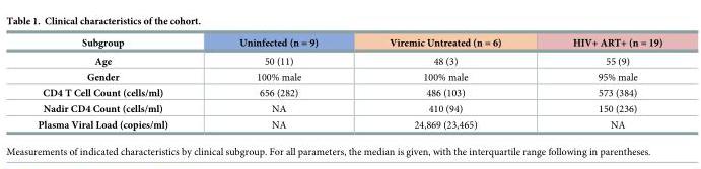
<table><thead><tr><td>Subgroup</td><td>Uninfected (n = 9)</td><td>Viremic Untreated (n = 6)</td><td>HIV+ ART+ (n = 19)</td></tr></thead><tbody><tr><td>Age</td><td>50 (11)</td><td>48 (3)</td><td>55 (9)</td></tr><tr><td>Gender</td><td>100% male</td><td>100% male</td><td>95% male</td></tr><tr><td>CD4 T Cell Count (cells/ml)</td><td>656 (282)</td><td>486 (103)</td><td>573 (384)</td></tr><tr><td>Nadir CD4 Count (cells/ml)</td><td>NA</td><td>410 (94)</td><td>150 (236)</td></tr><tr><td>Plasma Viral Load (copies/ml)</td><td>NA</td><td>24,869 (23,465)</td><td>NA</td></tr></tbody></table>